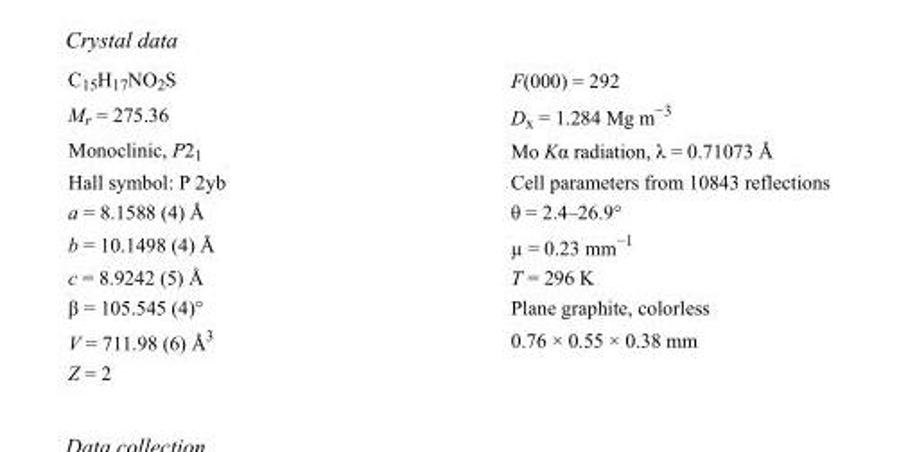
<table><tbody><tr><td>C<sub>15</sub>H<sub>17</sub>NO<sub>2</sub>S</td><td>F(000) = 292</td></tr><tr><td>M<sub>r</sub> = 275.36</td><td>D<sub>x</sub> = 1.284 Mg m<sup>−3</sup></td></tr><tr><td>Monoclinic, P2<sub>1</sub></td><td>Mo Kα radiation, λ = 0.71073 Å</td></tr><tr><td>Hall symbol: P 2yb</td><td>Cell parameters from 10843 reflections</td></tr><tr><td>a = 8.1588 (4) Å</td><td>θ = 2.4–26.9°</td></tr><tr><td>b = 10.1498 (4) Å</td><td>µ = 0.23 mm<sup>−1</sup></td></tr><tr><td>c = 8.9242 (5) Å</td><td>T = 296 K</td></tr><tr><td>β = 105.545 (4)°</td><td>Plane graphite, colorless</td></tr><tr><td>V = 711.98 (6) Å<sup>3</sup></td><td>0.76 × 0.55 × 0.38 mm</td></tr><tr><td>Z = 2</td><td></td></tr></tbody></table>